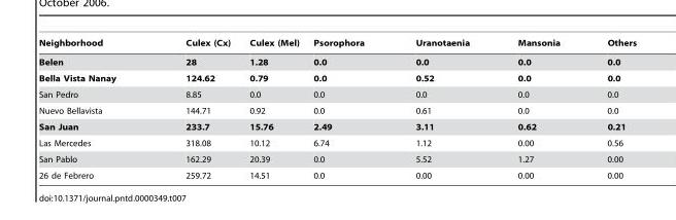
<table><thead><tr><td>Neighborhood</td><td>Culex (Cx)</td><td>Culex (Mel)</td><td>Psorophora</td><td>Uranotaenia</td><td>Mansonia</td><td>Others</td></tr></thead><tbody><tr><td>Belen</td><td>28</td><td>1.28</td><td>0.0</td><td>0.0</td><td>0.0</td><td>0.0</td></tr><tr><td>Bella Vista Nanay</td><td>124.62</td><td>0.79</td><td>0.0</td><td>0.52</td><td>0.0</td><td>0.0</td></tr><tr><td>San Pedro</td><td>8.85</td><td>0.0</td><td>0.0</td><td>0.0</td><td>0.0</td><td>0.0</td></tr><tr><td>Nuevo Bellavista</td><td>144.71</td><td>0.92</td><td>0.0</td><td>0.61</td><td>0.0</td><td>0.0</td></tr><tr><td>San Juan</td><td>233.7</td><td>15.76</td><td>2.49</td><td>3.11</td><td>0.62</td><td>0.21</td></tr><tr><td>Las Mercedes</td><td>318.08</td><td>10.12</td><td>6.74</td><td>1.12</td><td>0.00</td><td>0.56</td></tr><tr><td>San Pablo</td><td>162.29</td><td>20.39</td><td>0.0</td><td>5.52</td><td>1.27</td><td>0.00</td></tr><tr><td>26 de Febrero</td><td>259.72</td><td>14.51</td><td>0.0</td><td>0.00</td><td>0.00</td><td>0.00</td></tr></tbody></table>